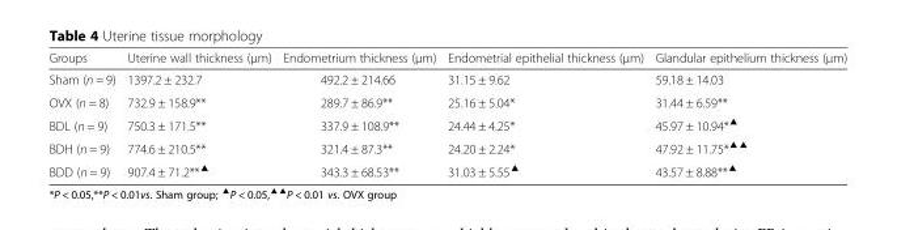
<table><thead><tr><td>Groups</td><td>Uterine wall thickness (μm)</td><td>Endometrium thickness (μm)</td><td>Endometrial epithelial thickness (μm)</td><td>Glandular epithelium thickness (μm)</td></tr></thead><tbody><tr><td>Sham (n = 9)</td><td>1397.2 ± 232.7</td><td>492.2 ± 214.66</td><td>31.15 ± 9.62</td><td>59.18 ± 14.03</td></tr><tr><td>OVX (n = 8)</td><td>732.9 ± 158.9**</td><td>289.7 ± 86.9**</td><td>25.16 ± 5.04*</td><td>31.44 ± 6.59**</td></tr><tr><td>BDL (n = 9)</td><td>750.3 ± 171.5**</td><td>337.9 ± 108.9**</td><td>24.44 ± 4.25*</td><td>45.97 ± 10.94*<sup>▲</sup></td></tr><tr><td>BDH (n = 9)</td><td>774.6 ± 210.5**</td><td>321.4 ± 87.3**</td><td>24.20 ± 2.24*</td><td>47.92 ± 11.75*<sup>▲▲</sup></td></tr><tr><td>BDD (n = 9)</td><td>907.4 ± 71.2**<sup>▲</sup></td><td>343.3 ± 68.53**</td><td>31.03 ± 5.55<sup>▲</sup></td><td>43.57 ± 8.88**<sup>▲</sup></td></tr></tbody></table>